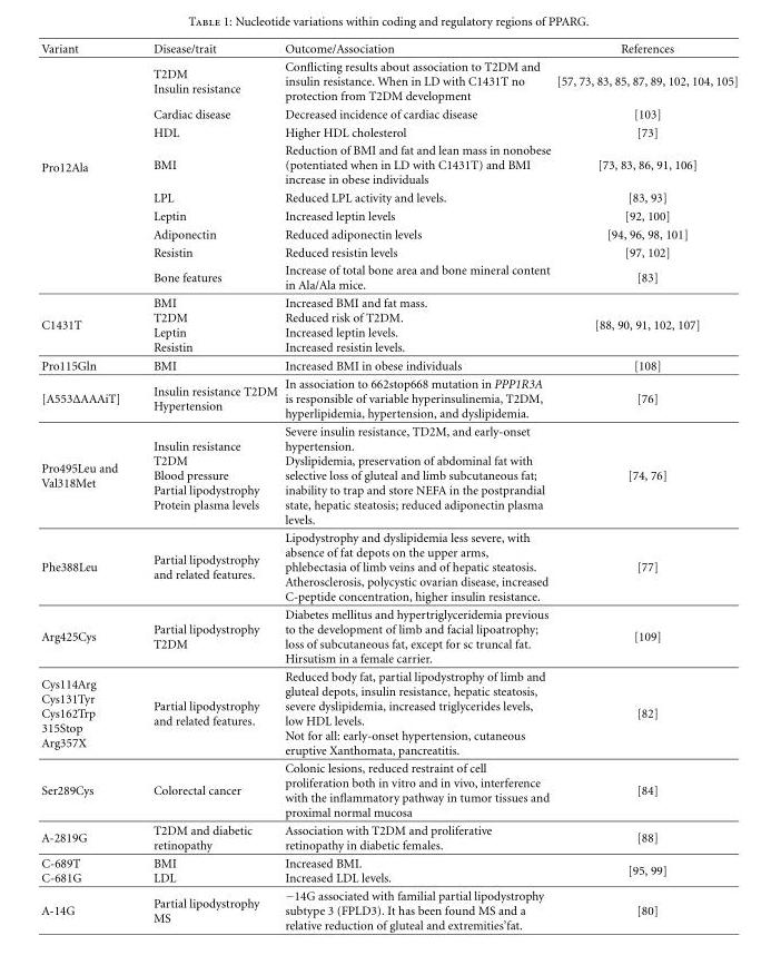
<table><thead><tr><td>Variant</td><td>Disease/trait</td><td>Outcome/Association</td><td>References</td></tr></thead><tbody><tr><td rowspan="9">Pro12Ala</td><td>T2DM Insulin resistance</td><td>Conflicting results about association to T2DM and insulin resistance. When in LD with C1431T no protection from T2DM development</td><td>[57, 73, 83, 85, 87, 89, 102, 104, 105]</td></tr><tr><td>Cardiac disease</td><td>Decreased incidence of cardiac disease</td><td>[103]</td></tr><tr><td>HDL</td><td>Higher HDL cholesterol</td><td>[73]</td></tr><tr><td>BMI</td><td>Reduction of BMI and fat and lean mass in nonobese (potentiated when in LD with C1431T) and BMI increase in obese individuals</td><td>[73, 83, 86, 91, 106]</td></tr><tr><td>LPL</td><td>Reduced LPL activity and levels.</td><td>[83, 93]</td></tr><tr><td>Leptin</td><td>Increased leptin levels</td><td>[92, 100]</td></tr><tr><td>Adiponectin</td><td>Reduced adiponectin levels</td><td>[94, 96, 98, 101]</td></tr><tr><td>Resistin</td><td>Reduced resistin levels</td><td>[97, 102]</td></tr><tr><td>Bone features</td><td>Increase of total bone area and bone mineral content in Ala/Ala mice.</td><td>[83]</td></tr><tr><td>C1431T</td><td>BMI T2DM Leptin Resistin</td><td>Increased BMI and fat mass. Reduced risk of T2DM. Increased leptin levels. Increased resistin levels.</td><td>[88, 90, 91, 102, 107]</td></tr><tr><td>Pro115Gln</td><td>BMI</td><td>Increased BMI in obese individuals</td><td>[108]</td></tr><tr><td>[A553ΔAAAiT]</td><td>Insulin resistance T2DM Hypertension</td><td>In association to 662stop668 mutation in PPP1R3A is responsible of variable hyperinsulinemia, T2DM, hyperlipidemia, hypertension, and dyslipidemia.</td><td>[76]</td></tr><tr><td>Pro495Leu and Val318Met</td><td>Insulin resistance T2DM Blood pressure Partial lipodystrophy Protein plasma levels</td><td>Severe insulin resistance, TD2M, and early-onset hypertension. Dyslipidemia, preservation of abdominal fat with selective loss of gluteal and limb subcutaneous fat; inability to trap and store NEFA in the postprandial state, hepatic steatosis; reduced adiponectin plasma levels.</td><td>[74, 76]</td></tr><tr><td>Phe388Leu</td><td>Partial lipodystrophy and related features.</td><td>Lipodystrophy and dyslipidemia less severe, with absence of fat depots on the upper arms, phlebectasia of limb veins and of hepatic steatosis. Atherosclerosis, polycystic ovarian disease, increased C-peptide concentration, higher insulin resistance.</td><td>[77]</td></tr><tr><td>Arg425Cys</td><td>Partial lipodystrophy T2DM</td><td>Diabetes mellitus and hypertriglyceridemia previous to the development of limb and facial lipoatrophy; loss of subcutaneous fat, except for sc truncal fat. Hirsutism in a female carrier.</td><td>[109]</td></tr><tr><td>Cys114Arg Cys131Tyr Cys162Trp 315Stop Arg357X</td><td>Partial lipodystrophy and related features.</td><td>Reduced body fat, partial lipodystrophy of limb and gluteal depots, insulin resistance, hepatic steatosis, severe dyslipidemia, increased triglycerides levels, low HDL levels. Not for all: early-onset hypertension, cutaneous eruptive Xanthomata, pancreatitis.</td><td>[82]</td></tr><tr><td>Ser289Cys</td><td>Colorectal cancer</td><td>Colonic lesions, reduced restraint of cell proliferation both in vitro and in vivo, interference with the inflammatory pathway in tumor tissues and proximal normal mucosa</td><td>[84]</td></tr><tr><td>A-2819G</td><td>T2DM and diabetic retinopathy</td><td>Association with T2DM and proliferative retinopathy in diabetic females.</td><td>[88]</td></tr><tr><td>C-689T C-681G</td><td>BMI LDL</td><td>Increased BMI. Increased LDL levels.</td><td>[95, 99]</td></tr><tr><td>A-14G</td><td>Partial lipodystrophy MS</td><td>−14G associated with familial partial lipodystrophy subtype 3 (FPLD3). It has been found MS and a relative reduction of gluteal and extremities’fat.</td><td>[80]</td></tr></tbody></table>